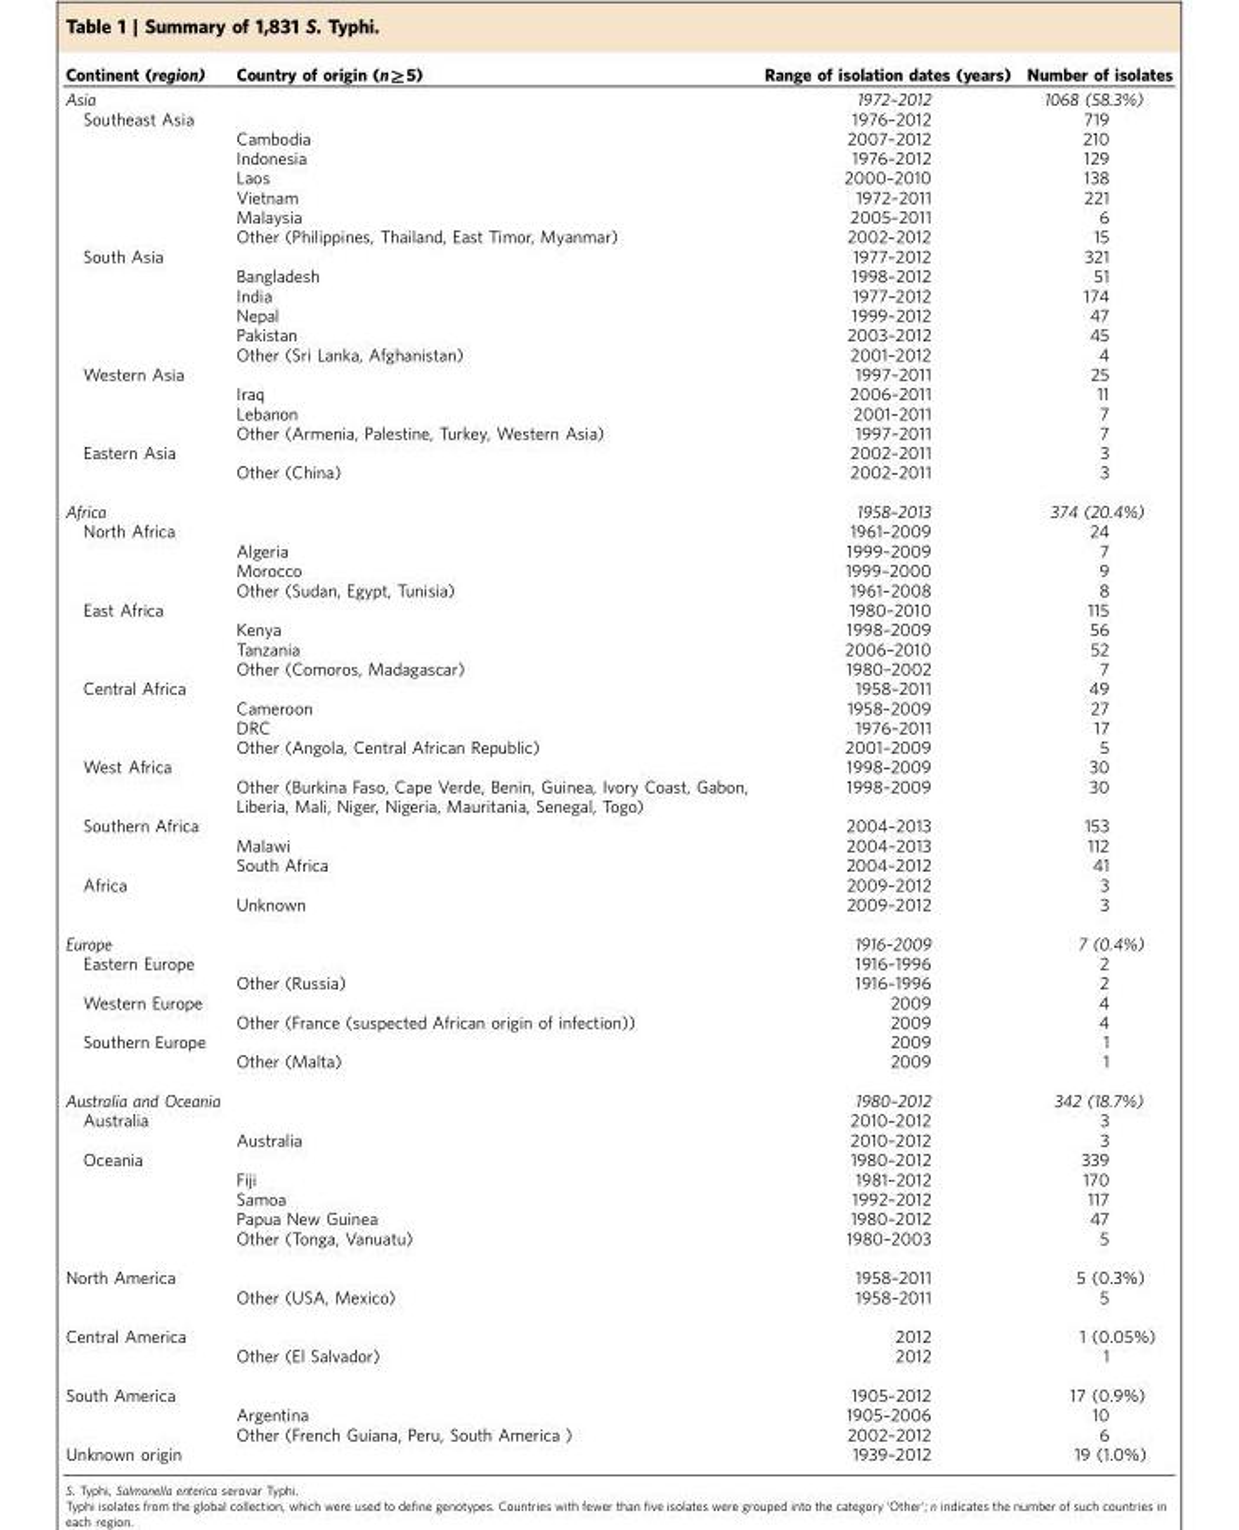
<table><thead><tr><td>Continent (region)</td><td>Country of origin (n⩾5)</td><td>Range of isolation dates (years)</td><td>Number of isolates</td></tr></thead><tbody><tr><td>Asia</td><td></td><td>1972–2012</td><td>1068 (58.3%)</td></tr><tr><td rowspan="7">Southeast Asia</td><td></td><td>1976–2012</td><td>719</td></tr><tr><td>Cambodia</td><td>2007–2012</td><td>210</td></tr><tr><td>Indonesia</td><td>1976–2012</td><td>129</td></tr><tr><td>Laos</td><td>2000–2010</td><td>138</td></tr><tr><td>Vietnam</td><td>1972–2011</td><td>221</td></tr><tr><td>Malaysia</td><td>2005–2011</td><td>6</td></tr><tr><td>Other (Philippines, Thailand, East Timor, Myanmar)</td><td>2002–2012</td><td>15</td></tr><tr><td rowspan="6">South Asia</td><td></td><td>1977–2012</td><td>321</td></tr><tr><td>Bangladesh</td><td>1998–2012</td><td>51</td></tr><tr><td>India</td><td>1977–2012</td><td>174</td></tr><tr><td>Nepal</td><td>1999–2012</td><td>47</td></tr><tr><td>Pakistan</td><td>2003–2012</td><td>45</td></tr><tr><td>Other (Sri Lanka, Afghanistan)</td><td>2001–2012</td><td>4</td></tr><tr><td rowspan="4">Western Asia</td><td></td><td>1997–2011</td><td>25</td></tr><tr><td>Iraq</td><td>2006–2011</td><td>11</td></tr><tr><td>Lebanon</td><td>2001–2011</td><td>7</td></tr><tr><td>Other (Armenia, Palestine, Turkey, Western Asia)</td><td>1997–2011</td><td>7</td></tr><tr><td rowspan="2">Eastern Asia</td><td></td><td>2002–2011</td><td>3</td></tr><tr><td>Other (China)</td><td>2002–2011</td><td>3</td></tr><tr><td>Africa</td><td></td><td>1958–2013</td><td>374 (20.4%)</td></tr><tr><td rowspan="4">North Africa</td><td></td><td>1961–2009</td><td>24</td></tr><tr><td>Algeria</td><td>1999–2009</td><td>7</td></tr><tr><td>Morocco</td><td>1999–2000</td><td>9</td></tr><tr><td>Other (Sudan, Egypt, Tunisia)</td><td>1961–2008</td><td>8</td></tr><tr><td rowspan="4">East Africa</td><td></td><td>1980–2010</td><td>115</td></tr><tr><td>Kenya</td><td>1998–2009</td><td>56</td></tr><tr><td>Tanzania</td><td>2006–2010</td><td>52</td></tr><tr><td>Other (Comoros, Madagascar)</td><td>1980–2002</td><td>7</td></tr><tr><td rowspan="4">Central Africa</td><td></td><td>1958–2011</td><td>49</td></tr><tr><td>Cameroon</td><td>1958–2009</td><td>27</td></tr><tr><td>DRC</td><td>1976–2011</td><td>17</td></tr><tr><td>Other (Angola, Central African Republic)</td><td>2001–2009</td><td>5</td></tr><tr><td rowspan="2">West Africa</td><td></td><td>1998–2009</td><td>30</td></tr><tr><td>Other (Burkina Faso, Cape Verde, Benin, Guinea, Ivory Coast, Gabon, Liberia, Mali, Niger, Nigeria, Mauritania, Senegal, Togo)</td><td>1998–2009</td><td>30</td></tr><tr><td rowspan="3">Southern Africa</td><td></td><td>2004–2013</td><td>153</td></tr><tr><td>Malawi</td><td>2004–2013</td><td>112</td></tr><tr><td>South Africa</td><td>2004–2012</td><td>41</td></tr><tr><td rowspan="2">Africa</td><td></td><td>2009–2012</td><td>3</td></tr><tr><td>Unknown</td><td>2009–2012</td><td>3</td></tr><tr><td>Europe</td><td></td><td>1916–2009</td><td>7 (0.4%)</td></tr><tr><td rowspan="2">Eastern Europe</td><td></td><td>1916–1996</td><td>2</td></tr><tr><td>Other (Russia)</td><td>1916–1996</td><td>2</td></tr><tr><td rowspan="2">Western Europe</td><td></td><td>2009</td><td>4</td></tr><tr><td>Other (France (suspected African origin of infection))</td><td>2009</td><td>4</td></tr><tr><td rowspan="2">Southern Europe</td><td></td><td>2009</td><td>1</td></tr><tr><td>Other (Malta)</td><td>2009</td><td>1</td></tr><tr><td>Australia and Oceania</td><td></td><td>1980–2012</td><td>342 (18.7%)</td></tr><tr><td rowspan="2">Australia</td><td></td><td>2010–2012</td><td>3</td></tr><tr><td>Australia</td><td>2010–2012</td><td>3</td></tr><tr><td rowspan="5">Oceania</td><td></td><td>1980–2012</td><td>339</td></tr><tr><td>Fiji</td><td>1981–2012</td><td>170</td></tr><tr><td>Samoa</td><td>1992–2012</td><td>117</td></tr><tr><td>Papua New Guinea</td><td>1980–2012</td><td>47</td></tr><tr><td>Other (Tonga, Vanuatu)</td><td>1980–2003</td><td>5</td></tr><tr><td rowspan="2">North America</td><td></td><td>1958–2011</td><td>5 (0.3%)</td></tr><tr><td>Other (USA, Mexico)</td><td>1958–2011</td><td>5</td></tr><tr><td rowspan="2">Central America</td><td></td><td>2012</td><td>1 (0.05%)</td></tr><tr><td>Other (El Salvador)</td><td>2012</td><td>1</td></tr><tr><td rowspan="3">South America</td><td></td><td>1905–2012</td><td>17 (0.9%)</td></tr><tr><td>Argentina</td><td>1905–2006</td><td>10</td></tr><tr><td>Other (French Guiana, Peru, South America )</td><td>2002–2012</td><td>6</td></tr><tr><td>Unknown origin</td><td></td><td>1939–2012</td><td>19 (1.0%)</td></tr></tbody></table>